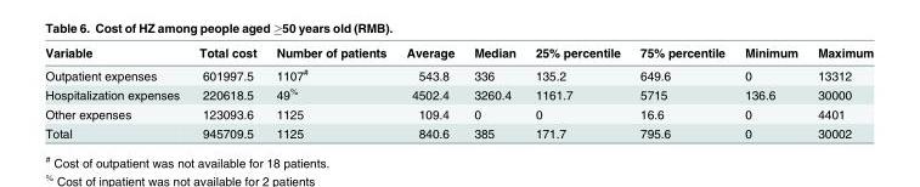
<table><thead><tr><td>Variable</td><td>Total cost</td><td>Number of patients</td><td>Average</td><td>Median</td><td>25% percentile</td><td>75% percentile</td><td>Minimum</td><td>Maximum</td></tr></thead><tbody><tr><td>Outpatient expenses</td><td>601997.5</td><td>1107<sup>#</sup></td><td>543.8</td><td>336</td><td>135.2</td><td>649.6</td><td>0</td><td>13312</td></tr><tr><td>Hospitalization expenses</td><td>220618.5</td><td>49<sup>%</sup></td><td>4502.4</td><td>3260.4</td><td>1161.7</td><td>5715</td><td>136.6</td><td>30000</td></tr><tr><td>Other expenses</td><td>123093.6</td><td>1125</td><td>109.4</td><td>0</td><td>0</td><td>16.6</td><td>0</td><td>4401</td></tr><tr><td>Total</td><td>945709.5</td><td>1125</td><td>840.6</td><td>385</td><td>171.7</td><td>795.6</td><td>0</td><td>30002</td></tr></tbody></table>